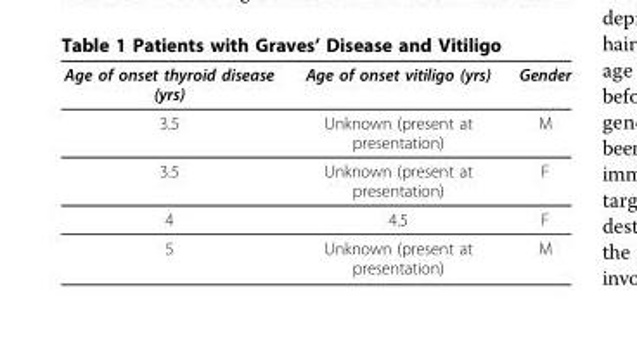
<table><thead><tr><td>Age of onset thyroid disease (yrs)</td><td>Age of onset vitiligo (yrs)</td><td>Gender</td></tr></thead><tbody><tr><td>3.5</td><td>Unknown (present at presentation)</td><td>M</td></tr><tr><td>3.5</td><td>Unknown (present at presentation)</td><td>F</td></tr><tr><td>4</td><td>4.5</td><td>F</td></tr><tr><td>5</td><td>Unknown (present at presentation)</td><td>M</td></tr></tbody></table>